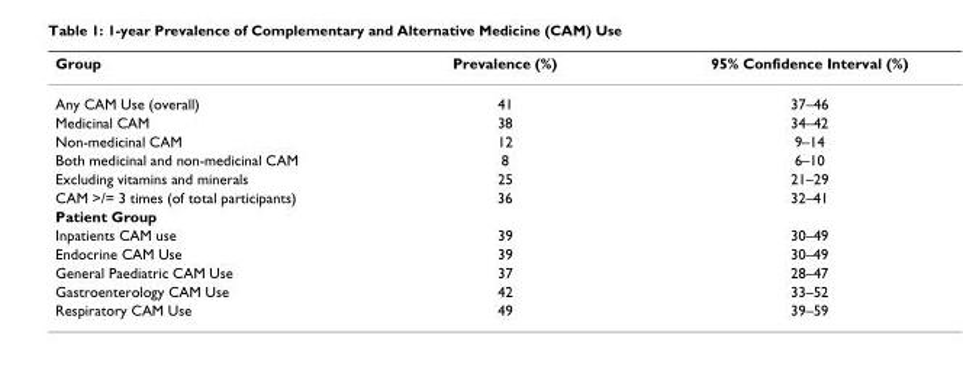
<table><thead><tr><td>Group</td><td>Prevalence (%)</td><td>95% Confidence Interval (%)</td></tr></thead><tbody><tr><td>Any CAM Use (overall)</td><td>41</td><td>37–46</td></tr><tr><td>Medicinal CAM</td><td>38</td><td>34–42</td></tr><tr><td>Non-medicinal CAM</td><td>12</td><td>9–14</td></tr><tr><td>Both medicinal and non-medicinal CAM</td><td>8</td><td>6–10</td></tr><tr><td>Excluding vitamins and minerals</td><td>25</td><td>21–29</td></tr><tr><td>CAM &gt;/= 3 times (of total participants)</td><td>36</td><td>32–41</td></tr><tr><td colspan="3">Patient Group</td></tr><tr><td>Inpatients CAM use</td><td>39</td><td>30–49</td></tr><tr><td>Endocrine CAM Use</td><td>39</td><td>30–49</td></tr><tr><td>General Paediatric CAM Use</td><td>37</td><td>28–47</td></tr><tr><td>Gastroenterology CAM Use</td><td>42</td><td>33–52</td></tr><tr><td>Respiratory CAM Use</td><td>49</td><td>39–59</td></tr></tbody></table>